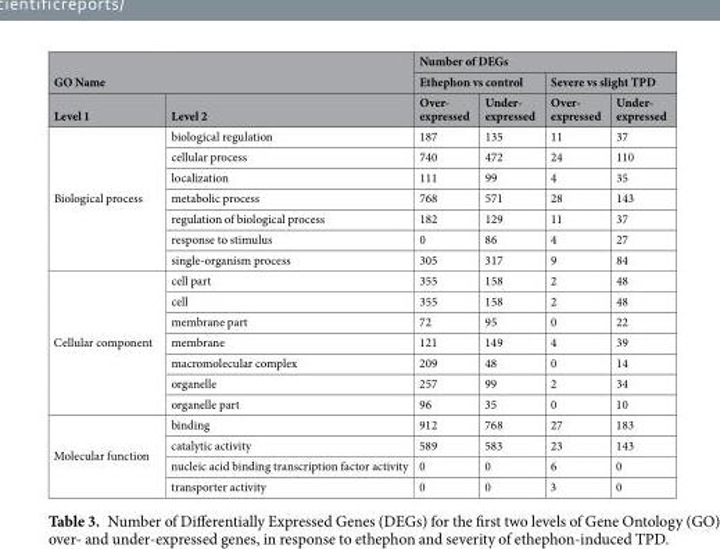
<table><thead><tr><td rowspan="2" colspan="2">GO Name</td><td colspan="4">Number of DEGs</td></tr><tr><td colspan="2">Ethephon vs control</td><td colspan="2">Severe vs slight TPD</td></tr><tr><td>Level 1</td><td>Level 2</td><td>Over- expressed</td><td>Under- expressed</td><td>Over- expressed</td><td>Under- expressed</td></tr></thead><tbody><tr><td rowspan="7">Biological process</td><td>biological regulation</td><td>187</td><td>135</td><td>11</td><td>37</td></tr><tr><td>cellular process</td><td>740</td><td>472</td><td>24</td><td>110</td></tr><tr><td>localization</td><td>111</td><td>99</td><td>4</td><td>35</td></tr><tr><td>metabolic process</td><td>768</td><td>571</td><td>28</td><td>143</td></tr><tr><td>regulation of biological process</td><td>182</td><td>129</td><td>11</td><td>37</td></tr><tr><td>response to stimulus</td><td>0</td><td>86</td><td>4</td><td>27</td></tr><tr><td>single-organism process</td><td>305</td><td>317</td><td>9</td><td>84</td></tr><tr><td rowspan="7">Cellular component</td><td>cell part</td><td>355</td><td>158</td><td>2</td><td>48</td></tr><tr><td>cell</td><td>355</td><td>158</td><td>2</td><td>48</td></tr><tr><td>membrane part</td><td>72</td><td>95</td><td>0</td><td>22</td></tr><tr><td>membrane</td><td>121</td><td>149</td><td>4</td><td>39</td></tr><tr><td>macromolecular complex</td><td>209</td><td>48</td><td>0</td><td>14</td></tr><tr><td>organelle</td><td>257</td><td>99</td><td>2</td><td>34</td></tr><tr><td>organelle part</td><td>96</td><td>35</td><td>0</td><td>10</td></tr><tr><td rowspan="4">Molecular function</td><td>binding</td><td>912</td><td>768</td><td>27</td><td>183</td></tr><tr><td>catalytic activity</td><td>589</td><td>583</td><td>23</td><td>143</td></tr><tr><td>nucleic acid binding transcription factor activity</td><td>0</td><td>0</td><td>6</td><td>0</td></tr><tr><td>transporter activity</td><td>0</td><td>0</td><td>3</td><td>0</td></tr></tbody></table>